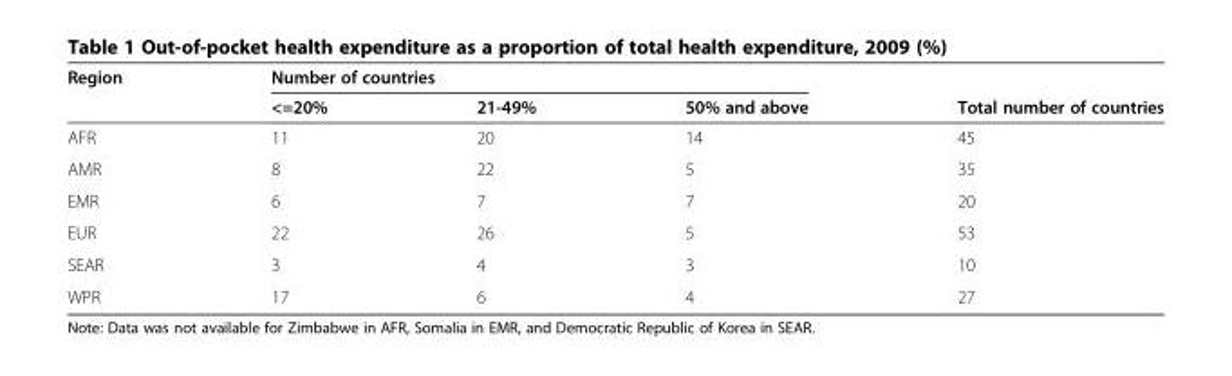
<table><thead><tr><td rowspan="2">Region</td><td colspan="3">Number of countries</td><td rowspan="2">Total number of countries</td></tr><tr><td>&lt;=20%</td><td>21-49%</td><td>50% and above</td></tr></thead><tbody><tr><td>AFR</td><td>11</td><td>20</td><td>14</td><td>45</td></tr><tr><td>AMR</td><td>8</td><td>22</td><td>5</td><td>35</td></tr><tr><td>EMR</td><td>6</td><td>7</td><td>7</td><td>20</td></tr><tr><td>EUR</td><td>22</td><td>26</td><td>5</td><td>53</td></tr><tr><td>SEAR</td><td>3</td><td>4</td><td>3</td><td>10</td></tr><tr><td>WPR</td><td>17</td><td>6</td><td>4</td><td>27</td></tr></tbody></table>